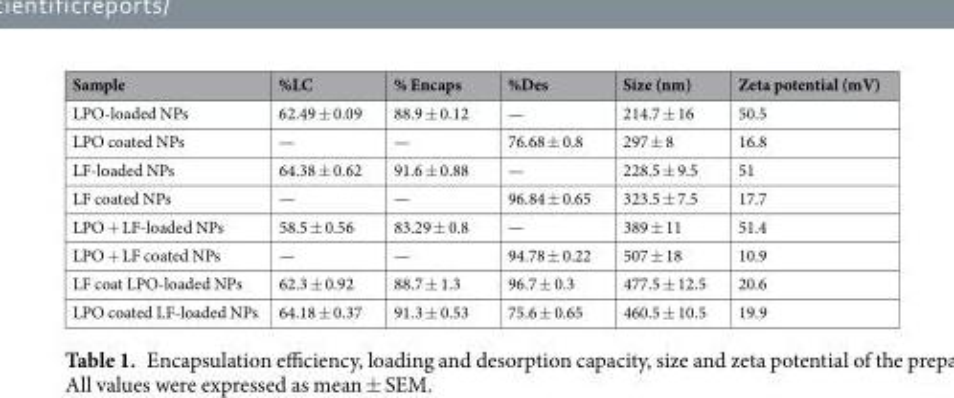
<table><thead><tr><td>Sample</td><td>%LC</td><td>% Encaps</td><td>%Des</td><td>Size (nm)</td><td>Zeta potential (mV)</td></tr></thead><tbody><tr><td>LPO-loaded NPs</td><td>62.49 ± 0.09</td><td>88.9 ± 0.12</td><td>—</td><td>214.7 ± 16</td><td>50.5</td></tr><tr><td>LPO coated NPs</td><td>—</td><td>—</td><td>76.68 ± 0.8</td><td>297 ± 8</td><td>16.8</td></tr><tr><td>LF-loaded NPs</td><td>64.38 ± 0.62</td><td>91.6 ± 0.88</td><td>—</td><td>228.5 ± 9.5</td><td>51</td></tr><tr><td>LF coated NPs</td><td>—</td><td>—</td><td>96.84 ± 0.65</td><td>323.5 ± 7.5</td><td>17.7</td></tr><tr><td>LPO + LF-loaded NPs</td><td>58.5 ± 0.56</td><td>83.29 ± 0.8</td><td>—</td><td>389 ± 11</td><td>51.4</td></tr><tr><td>LPO + LF coated NPs</td><td>—</td><td>—</td><td>94.78 ± 0.22</td><td>507 ± 18</td><td>10.9</td></tr><tr><td>LF coat LPO-loaded NPs</td><td>62.3 ± 0.92</td><td>88.7 ± 1.3</td><td>96.7 ± 0.3</td><td>477.5 ± 12.5</td><td>20.6</td></tr><tr><td>LPO coated LF-loaded NPs</td><td>64.18 ± 0.37</td><td>91.3 ± 0.53</td><td>75.6 ± 0.65</td><td>460.5 ± 10.5</td><td>19.9</td></tr></tbody></table>